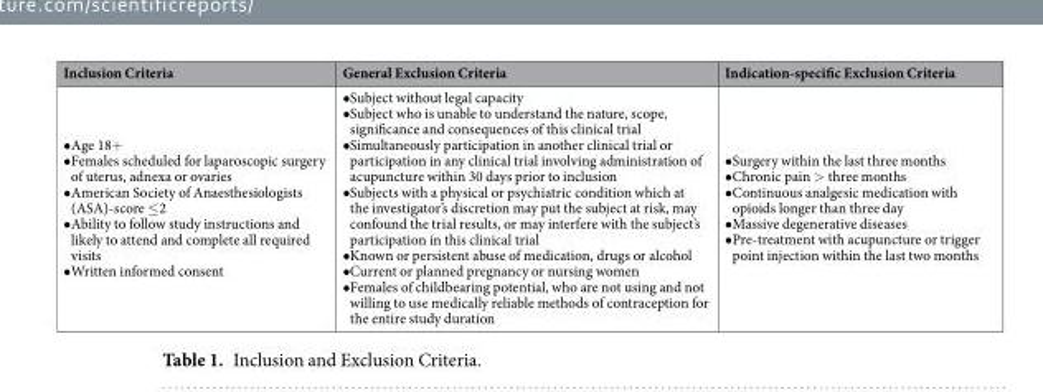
<table><thead><tr><td>Inclusion Criteria</td><td>General Exclusion Criteria</td><td>Indication-specific Exclusion Criteria</td></tr></thead><tbody><tr><td>•Age 18+ •Females scheduled for laparoscopic surgery of uterus, adnexa or ovaries •American Society of Anaesthesiologists (ASA)-score ≤2 •Ability to follow study instructions and likely to attend and complete all required visits •Written informed consent</td><td>•Subject without legal capacity •Subject who is unable to understand the nature, scope, significance and consequences of this clinical trial •Simultaneously participation in another clinical trial or participation in any clinical trial involving administration of acupuncture within 30 days prior to inclusion •Subjects with a physical or psychiatric condition which at the investigator’s discretion may put the subject at risk, may confound the trial results, or may interfere with the subject’s participation in this clinical trial •Known or persistent abuse of medication, drugs or alcohol •Current or planned pregnancy or nursing women •Females of childbearing potential, who are not using and not willing to use medically reliable methods of contraception for the entire study duration</td><td>•Surgery within the last three months •Chronic pain &gt; three months •Continuous analgesic medication with opioids longer than three day •Massive degenerative diseases •Pre-treatment with acupuncture or trigger point injection within the last two months</td></tr></tbody></table>